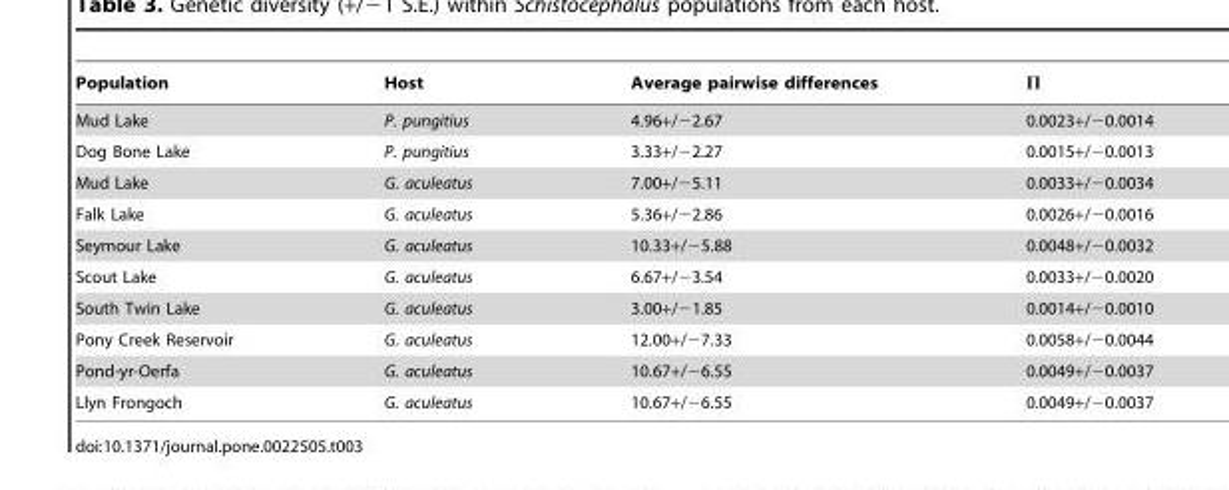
<table><thead><tr><td>Population</td><td>Host</td><td>Average pairwise differences</td><td>Π</td></tr></thead><tbody><tr><td>Mud Lake</td><td>P. pungitius</td><td>4.96+/−2.67</td><td>0.0023+/−0.0014</td></tr><tr><td>Dog Bone Lake</td><td>P. pungitius</td><td>3.33+/−2.27</td><td>0.0015+/−0.0013</td></tr><tr><td>Mud Lake</td><td>G. aculeatus</td><td>7.00+/−5.11</td><td>0.0033+/−0.0034</td></tr><tr><td>Falk Lake</td><td>G. aculeatus</td><td>5.36+/−2.86</td><td>0.0026+/−0.0016</td></tr><tr><td>Seymour Lake</td><td>G. aculeatus</td><td>10.33+/−5.88</td><td>0.0048+/−0.0032</td></tr><tr><td>Scout Lake</td><td>G. aculeatus</td><td>6.67+/−3.54</td><td>0.0033+/−0.0020</td></tr><tr><td>South Twin Lake</td><td>G. aculeatus</td><td>3.00+/−1.85</td><td>0.0014+/−0.0010</td></tr><tr><td>Pony Creek Reservoir</td><td>G. aculeatus</td><td>12.00+/−7.33</td><td>0.0058+/−0.0044</td></tr><tr><td>Pond-yr-Oerfa</td><td>G. aculeatus</td><td>10.67+/−6.55</td><td>0.0049+/−0.0037</td></tr><tr><td>Llyn Frongoch</td><td>G. aculeatus</td><td>10.67+/−6.55</td><td>0.0049+/−0.0037</td></tr></tbody></table>